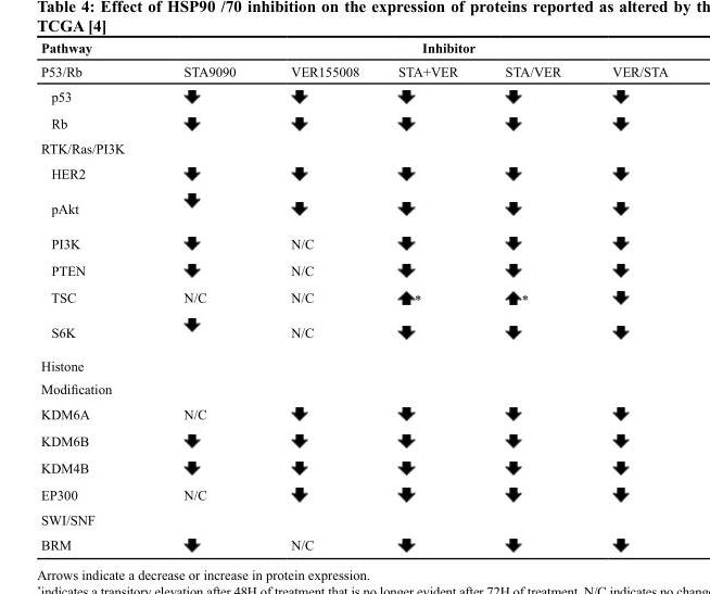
<table><thead><tr><td rowspan="2">Pathway P53/Rb</td><td colspan="5">Inhibitor</td></tr><tr><td>STA9090</td><td>VER155008</td><td>STA+VER</td><td>STA/VER</td><td>VER/STA</td></tr></thead><tbody><tr><td colspan="6">p53</td></tr><tr><td colspan="6">Rb</td></tr><tr><td colspan="6">RTK/Ras/PI3K</td></tr><tr><td colspan="6">HER2</td></tr><tr><td colspan="6">pAkt</td></tr><tr><td>PI3K</td><td></td><td>N/C</td><td></td><td></td><td></td></tr><tr><td>PTEN</td><td></td><td>N/C</td><td></td><td></td><td></td></tr><tr><td>TSC</td><td>N/C</td><td>N/C</td><td>*</td><td>*</td><td></td></tr><tr><td>S6K</td><td></td><td>N/C</td><td></td><td></td><td></td></tr><tr><td colspan="6">Histone</td></tr><tr><td colspan="6">Modification</td></tr><tr><td>KDM6A</td><td>N/C</td><td></td><td></td><td></td><td></td></tr><tr><td colspan="6">KDM6B</td></tr><tr><td colspan="6">KDM4B</td></tr><tr><td>EP300</td><td>N/C</td><td></td><td></td><td></td><td></td></tr><tr><td colspan="6">SWI/SNF</td></tr><tr><td>BRM</td><td></td><td>N/C</td><td></td><td></td><td></td></tr></tbody></table>